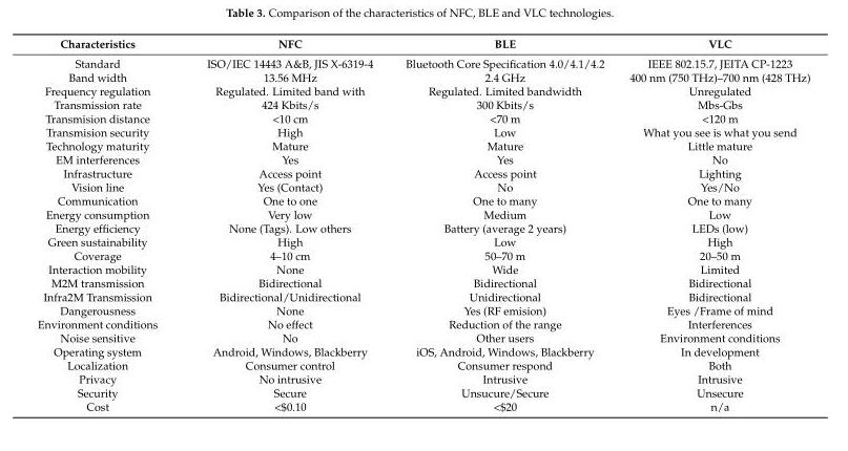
<table><thead><tr><td>Characteristics</td><td>NFC</td><td>BLE</td><td>VLC</td></tr></thead><tbody><tr><td>Standard</td><td>ISO/IEC 14443 A&amp;B, JIS X-6319-4</td><td>Bluetooth Core Specification 4.0/4.1/4.2</td><td>IEEE 802.15.7, JEITA CP-1223</td></tr><tr><td>Band width</td><td>13.56 MHz</td><td>2.4 GHz</td><td>400 nm (750 THz)–700 nm (428 THz)</td></tr><tr><td>Frequency regulation</td><td>Regulated. Limited band with</td><td>Regulated. Limited bandwidth</td><td>Unregulated</td></tr><tr><td>Transmission rate</td><td>424 Kbits/s</td><td>300 Kbits/s</td><td>Mbs-Gbs</td></tr><tr><td>Transmision distance</td><td>&lt;10 cm</td><td>&lt;70 m</td><td>&lt;120 m</td></tr><tr><td>Transmision security</td><td>High</td><td>Low</td><td>What you see is what you send</td></tr><tr><td>Technology maturity</td><td>Mature</td><td>Mature</td><td>Little mature</td></tr><tr><td>EM interferences</td><td>Yes</td><td>Yes</td><td>No</td></tr><tr><td>Infrastructure</td><td>Access point</td><td>Access point</td><td>Lighting</td></tr><tr><td>Vision line</td><td>Yes (Contact)</td><td>No</td><td>Yes/No</td></tr><tr><td>Communication</td><td>One to one</td><td>One to many</td><td>One to many</td></tr><tr><td>Energy consumption</td><td>Very low</td><td>Medium</td><td>Low</td></tr><tr><td>Energy efficiency</td><td>None (Tags). Low others</td><td>Battery (average 2 years)</td><td>LEDs (low)</td></tr><tr><td>Green sustainability</td><td>High</td><td>Low</td><td>High</td></tr><tr><td>Coverage</td><td>4–10 cm</td><td>50–70 m</td><td>20–50 m</td></tr><tr><td>Interaction mobility</td><td>None</td><td>Wide</td><td>Limited</td></tr><tr><td>M2M transmission</td><td>Bidirectional</td><td>Bidirectional</td><td>Bidirectional</td></tr><tr><td>Infra2M Transmission</td><td>Bidirectional/Unidirectional</td><td>Unidirectional</td><td>Bidirectional</td></tr><tr><td>Dangerousness</td><td>None</td><td>Yes (RF emision)</td><td>Eyes /Frame of mind</td></tr><tr><td>Environment conditions</td><td>No effect</td><td>Reduction of the range</td><td>Interferences</td></tr><tr><td>Noise sensitive</td><td>No</td><td>Other users</td><td>Environment conditions</td></tr><tr><td>Operating system</td><td>Android, Windows, Blackberry</td><td>iOS, Android, Windows, Blackberry</td><td>In development</td></tr><tr><td>Localization</td><td>Consumer control</td><td>Consumer respond</td><td>Both</td></tr><tr><td>Privacy</td><td>No intrusive</td><td>Intrusive</td><td>Intrusive</td></tr><tr><td>Security</td><td>Secure</td><td>Unsucure/Secure</td><td>Unsecure</td></tr><tr><td>Cost</td><td>&lt;$0.10</td><td>&lt;$20</td><td>n/a</td></tr></tbody></table>